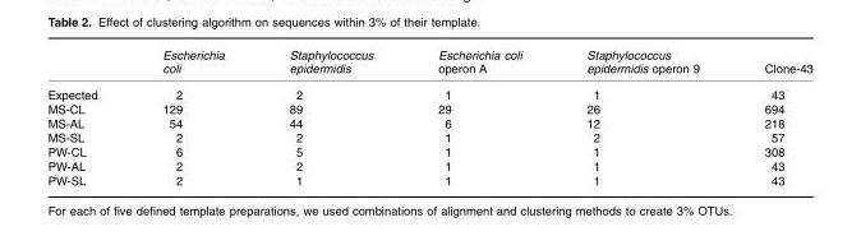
<table><thead><tr><td></td><td>Escherichia coli</td><td>Staphylococcus epidermidis</td><td>Escherichia coli operon A</td><td>Staphylococcus epidermidis operon 9</td><td>Clone-43</td></tr></thead><tbody><tr><td>Expected</td><td>2</td><td>2</td><td>1</td><td>1</td><td>43</td></tr><tr><td>MS-CL</td><td>129</td><td>89</td><td>29</td><td>26</td><td>694</td></tr><tr><td>MS-AL</td><td>54</td><td>44</td><td>6</td><td>12</td><td>218</td></tr><tr><td>MS-SL</td><td>2</td><td>2</td><td>1</td><td>2</td><td>57</td></tr><tr><td>PW-CL</td><td>6</td><td>5</td><td>1</td><td>1</td><td>308</td></tr><tr><td>PW-AL</td><td>2</td><td>2</td><td>1</td><td>1</td><td>43</td></tr><tr><td>PW-SL</td><td>2</td><td>1</td><td>1</td><td>1</td><td>43</td></tr></tbody></table>